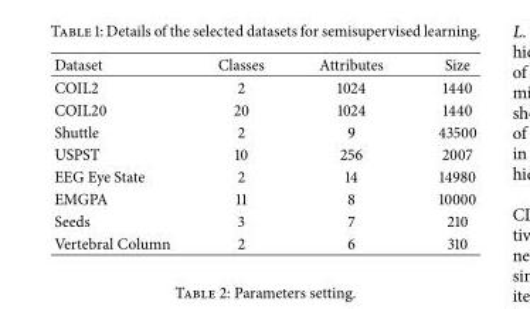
<table><thead><tr><td>Dataset</td><td>Classes</td><td>Attributes</td><td>Size</td></tr></thead><tbody><tr><td>COIL2</td><td>2</td><td>1024</td><td>1440</td></tr><tr><td>COIL20</td><td>20</td><td>1024</td><td>1440</td></tr><tr><td>Shuttle</td><td>2</td><td>9</td><td>43500</td></tr><tr><td>USPST</td><td>10</td><td>256</td><td>2007</td></tr><tr><td>EEG Eye State</td><td>2</td><td>14</td><td>14980</td></tr><tr><td>EMGPA</td><td>11</td><td>8</td><td>10000</td></tr><tr><td>Seeds</td><td>3</td><td>7</td><td>210</td></tr><tr><td>Vertebral Column</td><td>2</td><td>6</td><td>310</td></tr></tbody></table>